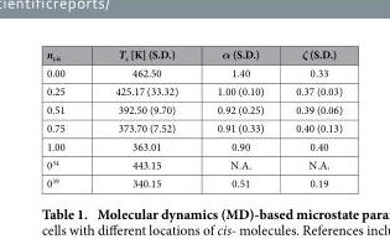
<table><thead><tr><td>n<sub>cis</sub></td><td>T<sub>c</sub> [K] (S.D.)</td><td>α (S.D.)</td><td>ζ (S.D.)</td></tr></thead><tbody><tr><td>0.00</td><td>462.50</td><td>1.40</td><td>0.33</td></tr><tr><td>0.25</td><td>425.17 (33.32)</td><td>1.00 (0.10)</td><td>0.37 (0.03)</td></tr><tr><td>0.51</td><td>392.50 (9.70)</td><td>0.92 (0.25)</td><td>0.39 (0.06)</td></tr><tr><td>0.75</td><td>373.70 (7.52)</td><td>0.91 (0.33)</td><td>0.40 (0.13)</td></tr><tr><td>1.00</td><td>363.01</td><td>0.90</td><td>0.40</td></tr><tr><td>0<sup>34</sup></td><td>443.15</td><td>N.A.</td><td>N.A.</td></tr><tr><td>0<sup>39</sup></td><td>340.15</td><td>0.51</td><td>0.19</td></tr></tbody></table>